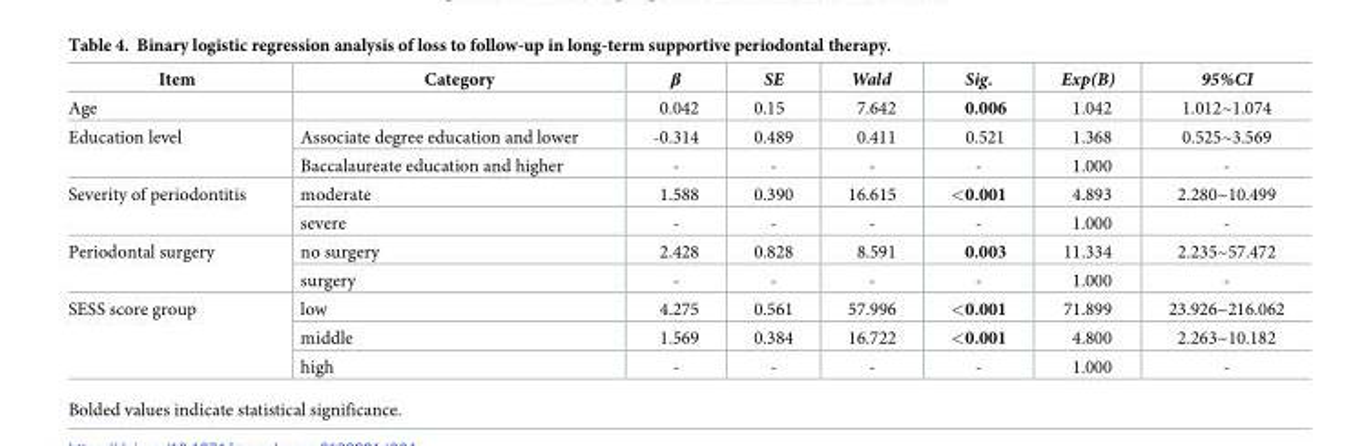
<table><thead><tr><td>Item</td><td>Category</td><td>β</td><td>SE</td><td>Wald</td><td>Sig.</td><td>Exp(B)</td><td>95%CI</td></tr></thead><tbody><tr><td>Age</td><td></td><td>0.042</td><td>0.15</td><td>7.642</td><td>0.006</td><td>1.042</td><td>1.012~1.074</td></tr><tr><td rowspan="2">Education level</td><td>Associate degree education and lower</td><td>-0.314</td><td>0.489</td><td>0.411</td><td>0.521</td><td>1.368</td><td>0.525~3.569</td></tr><tr><td>Baccalaureate education and higher</td><td>-</td><td>-</td><td>-</td><td>-</td><td>1.000</td><td>-</td></tr><tr><td rowspan="2">Severity of periodontitis</td><td>moderate</td><td>1.588</td><td>0.390</td><td>16.615</td><td>&lt;0.001</td><td>4.893</td><td>2.280~10.499</td></tr><tr><td>severe</td><td>-</td><td>-</td><td>-</td><td>-</td><td>1.000</td><td>-</td></tr><tr><td rowspan="2">Periodontal surgery</td><td>no surgery</td><td>2.428</td><td>0.828</td><td>8.591</td><td>0.003</td><td>11.334</td><td>2.235~57.472</td></tr><tr><td>surgery</td><td>-</td><td>-</td><td>-</td><td>-</td><td>1.000</td><td>-</td></tr><tr><td rowspan="3">SESS score group</td><td>low</td><td>4.275</td><td>0.561</td><td>57.996</td><td>&lt;0.001</td><td>71.899</td><td>23.926~216.062</td></tr><tr><td>middle</td><td>1.569</td><td>0.384</td><td>16.722</td><td>&lt;0.001</td><td>4.800</td><td>2.263~10.182</td></tr><tr><td>high</td><td>-</td><td>-</td><td>-</td><td>-</td><td>1.000</td><td>-</td></tr></tbody></table>